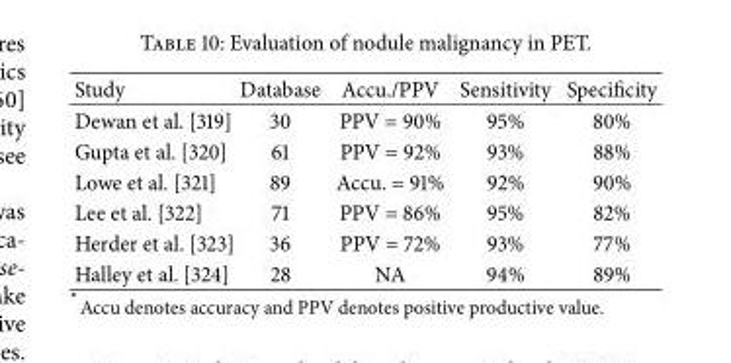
<table><thead><tr><td>Study</td><td>Database</td><td>Accu./PPV</td><td>Sensitivity</td><td>Specificity</td></tr></thead><tbody><tr><td>Dewan et al. [319]</td><td>30</td><td>PPV = 90%</td><td>95%</td><td>80%</td></tr><tr><td>Gupta et al. [320]</td><td>61</td><td>PPV = 92%</td><td>93%</td><td>88%</td></tr><tr><td>Lowe et al. [321]</td><td>89</td><td>Accu. = 91%</td><td>92%</td><td>90%</td></tr><tr><td>Lee et al. [322]</td><td>71</td><td>PPV = 86%</td><td>95%</td><td>82%</td></tr><tr><td>Herder et al. [323]</td><td>36</td><td>PPV = 72%</td><td>93%</td><td>77%</td></tr><tr><td>Halley et al. [324]</td><td>28</td><td>NA</td><td>94%</td><td>89%</td></tr></tbody></table>